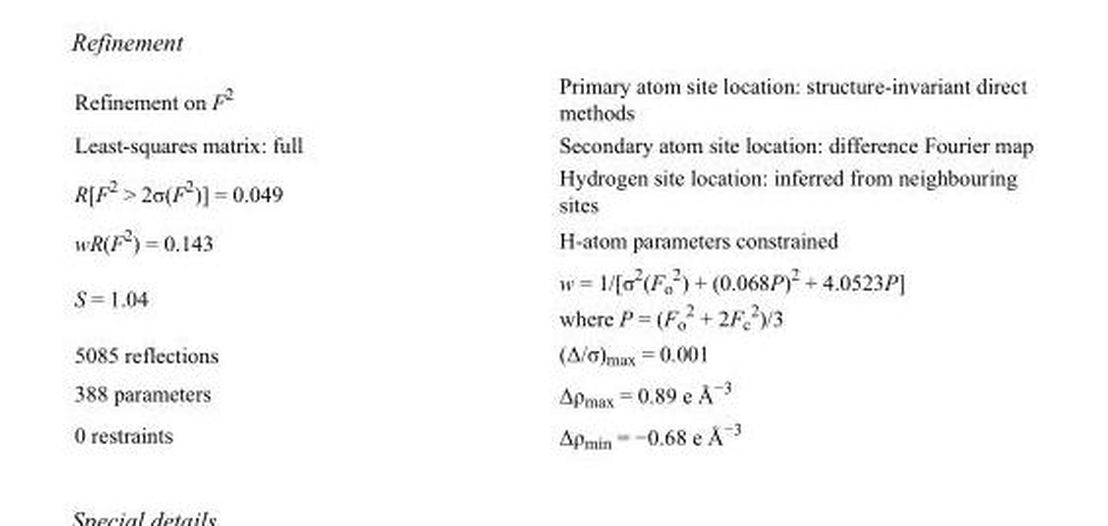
<table><tbody><tr><td>Refinement on F<sup>2</sup></td><td>Primary atom site location: structure-invariant direct methods</td></tr><tr><td>Least-squares matrix: full</td><td>Secondary atom site location: difference Fourier map</td></tr><tr><td>R[F<sup>2</sup> &gt; 2σ(F<sup>2</sup>)] = 0.049</td><td>Hydrogen site location: inferred from neighbouring sites</td></tr><tr><td>wR(F<sup>2</sup>) = 0.143</td><td>H-atom parameters constrained</td></tr><tr><td>S = 1.04</td><td>w = 1/[σ<sup>2</sup>(F<sub>o</sub> <sup>2</sup>) + (0.068P)<sup>2</sup> + 4.0523P] where P = (F<sub>o</sub> <sup>2</sup> + 2F<sub>c</sub> <sup>2</sup>)/3</td></tr><tr><td>5085 reflections</td><td>(Δ/σ)<sub>max</sub> = 0.001</td></tr><tr><td>388 parameters</td><td>Δρ<sub>max</sub> = 0.89 e Å<sup>−3</sup></td></tr><tr><td>0 restraints</td><td>Δρ<sub>min</sub> = −0.68 e Å<sup>−3</sup></td></tr></tbody></table>